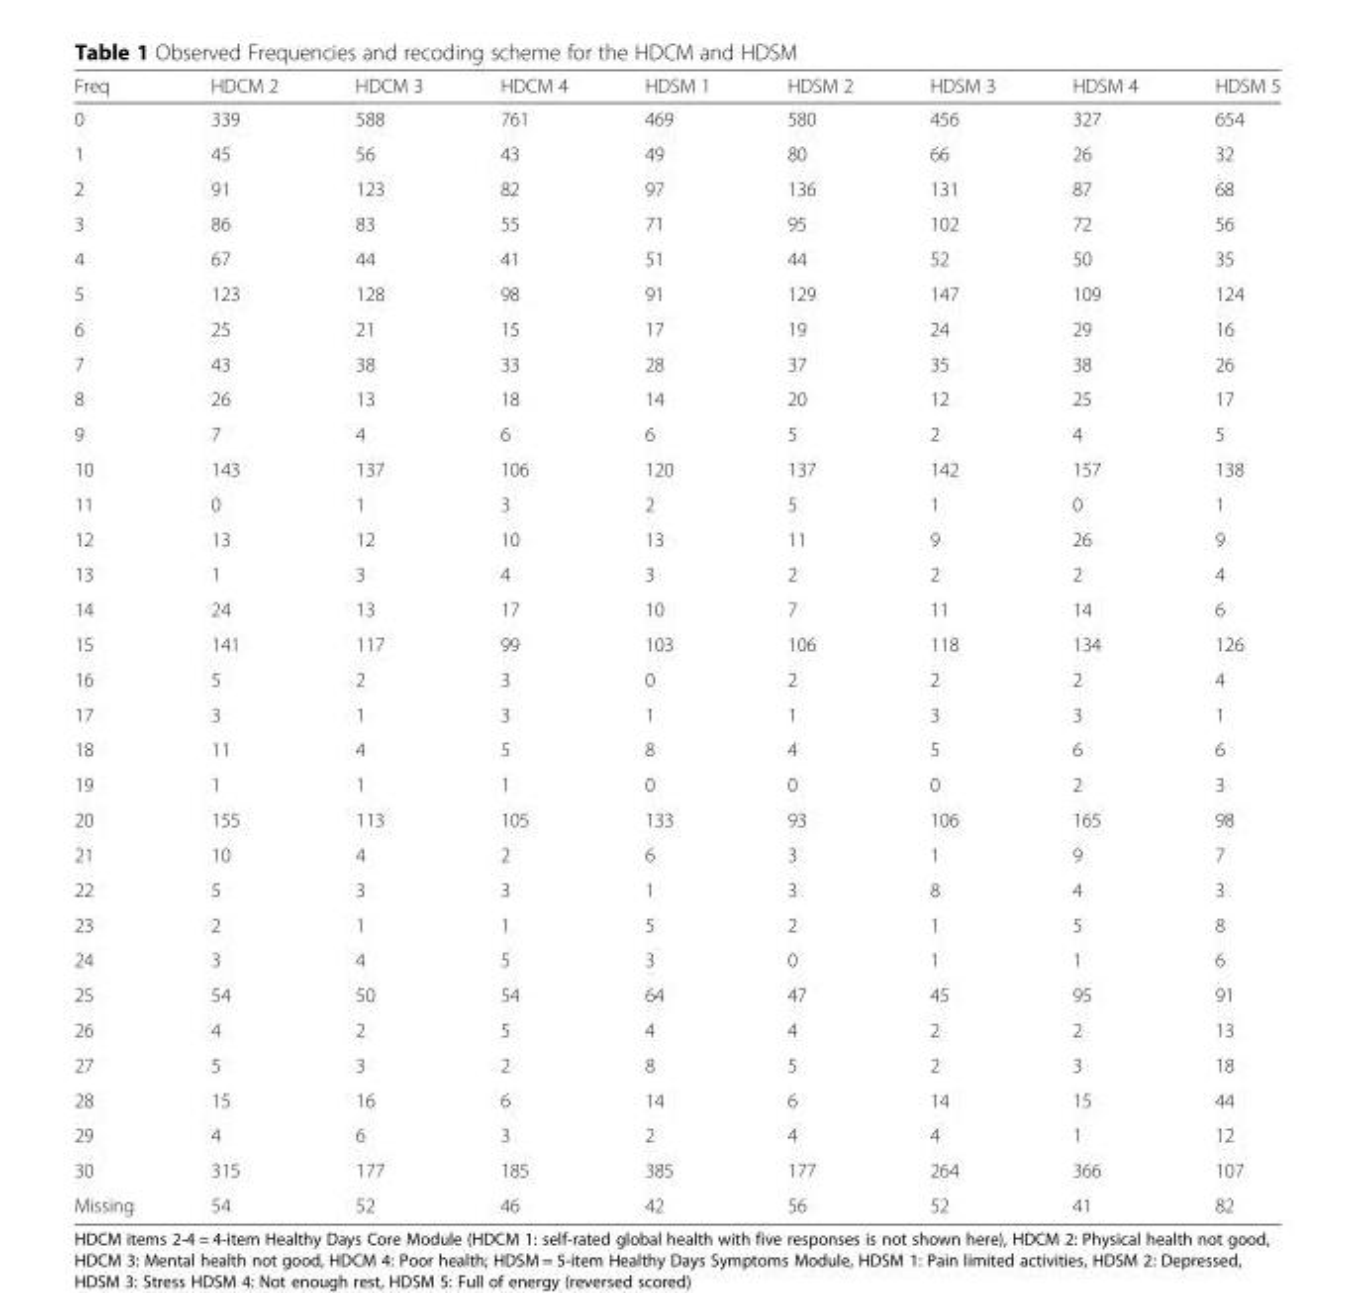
<table><thead><tr><td>Freq</td><td>HDCM 2</td><td>HDCM 3</td><td>HDCM 4</td><td>HDSM 1</td><td>HDSM 2</td><td>HDSM 3</td><td>HDSM 4</td><td>HDSM 5</td></tr></thead><tbody><tr><td>0</td><td>339</td><td>588</td><td>761</td><td>469</td><td>580</td><td>456</td><td>327</td><td>654</td></tr><tr><td>1</td><td>45</td><td>56</td><td>43</td><td>49</td><td>80</td><td>66</td><td>26</td><td>32</td></tr><tr><td>2</td><td>91</td><td>123</td><td>82</td><td>97</td><td>136</td><td>131</td><td>87</td><td>68</td></tr><tr><td>3</td><td>86</td><td>83</td><td>55</td><td>71</td><td>95</td><td>102</td><td>72</td><td>56</td></tr><tr><td>4</td><td>67</td><td>44</td><td>41</td><td>51</td><td>44</td><td>52</td><td>50</td><td>35</td></tr><tr><td>5</td><td>123</td><td>128</td><td>98</td><td>91</td><td>129</td><td>147</td><td>109</td><td>124</td></tr><tr><td>6</td><td>25</td><td>21</td><td>15</td><td>17</td><td>19</td><td>24</td><td>29</td><td>16</td></tr><tr><td>7</td><td>43</td><td>38</td><td>33</td><td>28</td><td>37</td><td>35</td><td>38</td><td>26</td></tr><tr><td>8</td><td>26</td><td>13</td><td>18</td><td>14</td><td>20</td><td>12</td><td>25</td><td>17</td></tr><tr><td>9</td><td>7</td><td>4</td><td>6</td><td>6</td><td>5</td><td>2</td><td>4</td><td>5</td></tr><tr><td>10</td><td>143</td><td>137</td><td>106</td><td>120</td><td>137</td><td>142</td><td>157</td><td>138</td></tr><tr><td>11</td><td>0</td><td>1</td><td>3</td><td>2</td><td>5</td><td>1</td><td>0</td><td>1</td></tr><tr><td>12</td><td>13</td><td>12</td><td>10</td><td>13</td><td>11</td><td>9</td><td>26</td><td>9</td></tr><tr><td>13</td><td>1</td><td>3</td><td>4</td><td>3</td><td>2</td><td>2</td><td>2</td><td>4</td></tr><tr><td>14</td><td>24</td><td>13</td><td>17</td><td>10</td><td>7</td><td>11</td><td>14</td><td>6</td></tr><tr><td>15</td><td>141</td><td>117</td><td>99</td><td>103</td><td>106</td><td>118</td><td>134</td><td>126</td></tr><tr><td>16</td><td>5</td><td>2</td><td>3</td><td>0</td><td>2</td><td>2</td><td>2</td><td>4</td></tr><tr><td>17</td><td>3</td><td>1</td><td>3</td><td>1</td><td>1</td><td>3</td><td>3</td><td>1</td></tr><tr><td>18</td><td>11</td><td>4</td><td>5</td><td>8</td><td>4</td><td>5</td><td>6</td><td>6</td></tr><tr><td>19</td><td>1</td><td>1</td><td>1</td><td>0</td><td>0</td><td>0</td><td>2</td><td>3</td></tr><tr><td>20</td><td>155</td><td>113</td><td>105</td><td>133</td><td>93</td><td>106</td><td>165</td><td>98</td></tr><tr><td>21</td><td>10</td><td>4</td><td>2</td><td>6</td><td>3</td><td>1</td><td>9</td><td>7</td></tr><tr><td>22</td><td>5</td><td>3</td><td>3</td><td>1</td><td>3</td><td>8</td><td>4</td><td>3</td></tr><tr><td>23</td><td>2</td><td>1</td><td>1</td><td>5</td><td>2</td><td>1</td><td>5</td><td>8</td></tr><tr><td>24</td><td>3</td><td>4</td><td>5</td><td>3</td><td>0</td><td>1</td><td>1</td><td>6</td></tr><tr><td>25</td><td>54</td><td>50</td><td>54</td><td>64</td><td>47</td><td>45</td><td>95</td><td>91</td></tr><tr><td>26</td><td>4</td><td>2</td><td>5</td><td>4</td><td>4</td><td>2</td><td>2</td><td>13</td></tr><tr><td>27</td><td>5</td><td>3</td><td>2</td><td>8</td><td>5</td><td>2</td><td>3</td><td>18</td></tr><tr><td>28</td><td>15</td><td>16</td><td>6</td><td>14</td><td>6</td><td>14</td><td>15</td><td>44</td></tr><tr><td>29</td><td>4</td><td>6</td><td>3</td><td>2</td><td>4</td><td>4</td><td>1</td><td>12</td></tr><tr><td>30</td><td>315</td><td>177</td><td>185</td><td>385</td><td>177</td><td>264</td><td>366</td><td>107</td></tr><tr><td>Missing</td><td>54</td><td>52</td><td>46</td><td>42</td><td>56</td><td>52</td><td>41</td><td>82</td></tr></tbody></table>